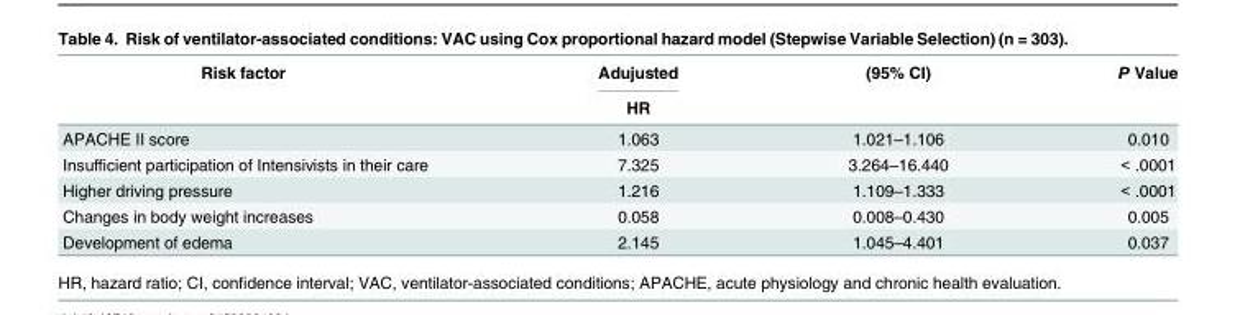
<table><thead><tr><td rowspan="2">Risk factor</td><td rowspan="2">Adujusted HR</td><td rowspan="2">(95% CI)</td><td rowspan="2">P Value</td></tr><tr></tr></thead><tbody><tr><td>APACHE Ⅱ score</td><td>1.063</td><td>1.021–1.106</td><td>0.010</td></tr><tr><td>Insufficient participation of Intensivists in their care</td><td>7.325</td><td>3.264–16.440</td><td>&lt; .0001</td></tr><tr><td>Higher driving pressure</td><td>1.216</td><td>1.109–1.333</td><td>&lt; .0001</td></tr><tr><td>Changes in body weight increases</td><td>0.058</td><td>0.008–0.430</td><td>0.005</td></tr><tr><td>Development of edema</td><td>2.145</td><td>1.045–4.401</td><td>0.037</td></tr></tbody></table>